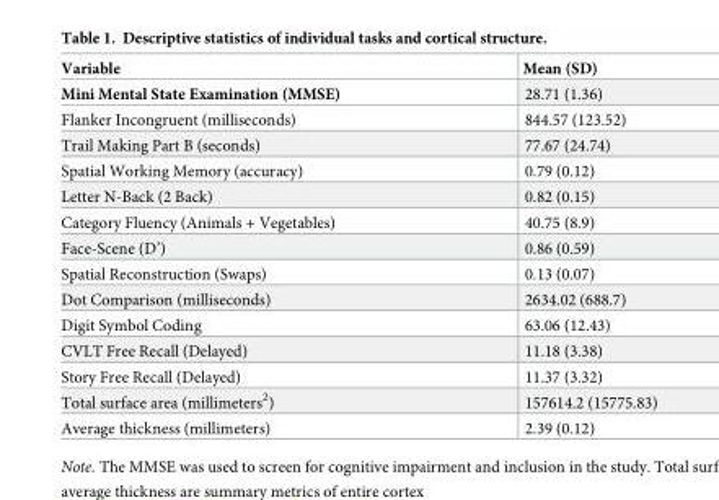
<table><thead><tr><td>Variable</td><td>Mean (SD)</td></tr></thead><tbody><tr><td>Mini Mental State Examination (MMSE)</td><td>28.71 (1.36)</td></tr><tr><td>Flanker Incongruent (milliseconds)</td><td>844.57 (123.52)</td></tr><tr><td>Trail Making Part B (seconds)</td><td>77.67 (24.74)</td></tr><tr><td>Spatial Working Memory (accuracy)</td><td>0.79 (0.12)</td></tr><tr><td>Letter N-Back (2 Back)</td><td>0.82 (0.15)</td></tr><tr><td>Category Fluency (Animals + Vegetables)</td><td>40.75 (8.9)</td></tr><tr><td>Face-Scene (D’)</td><td>0.86 (0.59)</td></tr><tr><td>Spatial Reconstruction (Swaps)</td><td>0.13 (0.07)</td></tr><tr><td>Dot Comparison (milliseconds)</td><td>2634.02 (688.7)</td></tr><tr><td>Digit Symbol Coding</td><td>63.06 (12.43)</td></tr><tr><td>CVLT Free Recall (Delayed)</td><td>11.18 (3.38)</td></tr><tr><td>Story Free Recall (Delayed)</td><td>11.37 (3.32)</td></tr><tr><td>Total surface area (millimeters<sup>2</sup>)</td><td>157614.2 (15775.83)</td></tr><tr><td>Average thickness (millimeters)</td><td>2.39 (0.12)</td></tr></tbody></table>